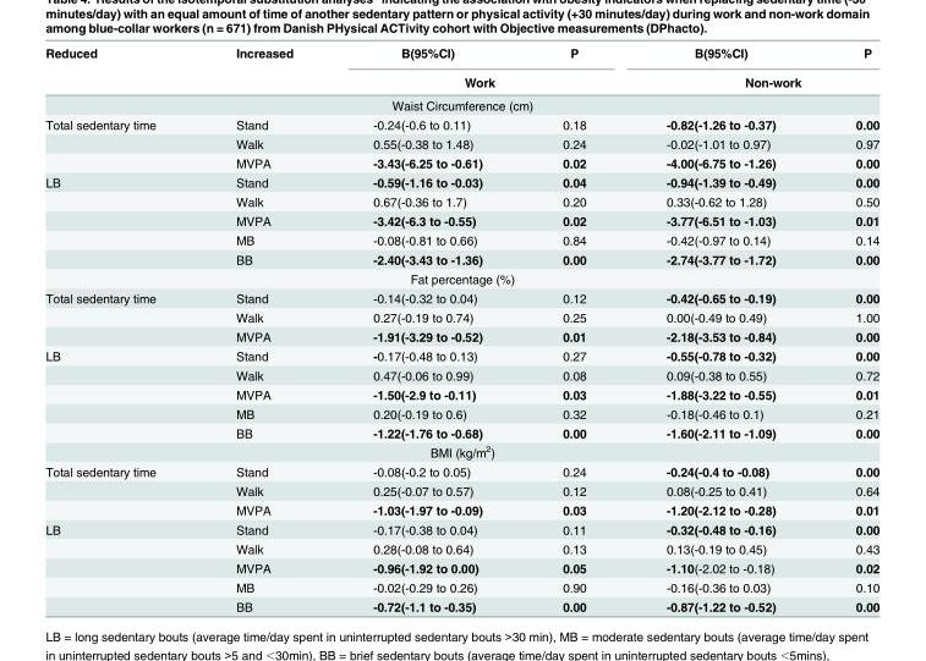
<table><thead><tr><td rowspan="2">Reduced</td><td rowspan="2">Increased</td><td>B(95%CI)</td><td>P</td><td>B(95%CI)</td><td>P</td></tr><tr><td colspan="2">Work</td><td colspan="2">Non-work</td></tr></thead><tbody><tr><td colspan="6">Waist Circumference (cm)</td></tr><tr><td rowspan="3">Total sedentary time</td><td>Stand</td><td>-0.24(-0.6 to 0.11)</td><td>0.18</td><td>-0.82(-1.26 to -0.37)</td><td>0.00</td></tr><tr><td>Walk</td><td>0.55(-0.38 to 1.48)</td><td>0.24</td><td>-0.02(-1.01 to 0.97)</td><td>0.97</td></tr><tr><td>MVPA</td><td>-3.43(-6.25 to -0.61)</td><td>0.02</td><td>-4.00(-6.75 to -1.26)</td><td>0.00</td></tr><tr><td rowspan="5">LB</td><td>Stand</td><td>-0.59(-1.16 to -0.03)</td><td>0.04</td><td>-0.94(-1.39 to -0.49)</td><td>0.00</td></tr><tr><td>Walk</td><td>0.67(-0.36 to 1.7)</td><td>0.20</td><td>0.33(-0.62 to 1.28)</td><td>0.50</td></tr><tr><td>MVPA</td><td>-3.42(-6.3 to -0.55)</td><td>0.02</td><td>-3.77(-6.51 to -1.03)</td><td>0.01</td></tr><tr><td>MB</td><td>-0.08(-0.81 to 0.66)</td><td>0.84</td><td>-0.42(-0.97 to 0.14)</td><td>0.14</td></tr><tr><td>BB</td><td>-2.40(-3.43 to -1.36)</td><td>0.00</td><td>-2.74(-3.77 to -1.72)</td><td>0.00</td></tr><tr><td colspan="6">Fat percentage (%)</td></tr><tr><td rowspan="3">Total sedentary time</td><td>Stand</td><td>-0.14(-0.32 to 0.04)</td><td>0.12</td><td>-0.42(-0.65 to -0.19)</td><td>0.00</td></tr><tr><td>Walk</td><td>0.27(-0.19 to 0.74)</td><td>0.25</td><td>0.00(-0.49 to 0.49)</td><td>1.00</td></tr><tr><td>MVPA</td><td>-1.91(-3.29 to -0.52)</td><td>0.01</td><td>-2.18(-3.53 to -0.84)</td><td>0.00</td></tr><tr><td rowspan="5">LB</td><td>Stand</td><td>-0.17(-0.48 to 0.13)</td><td>0.27</td><td>-0.55(-0.78 to -0.32)</td><td>0.00</td></tr><tr><td>Walk</td><td>0.47(-0.06 to 0.99)</td><td>0.08</td><td>0.09(-0.38 to 0.55)</td><td>0.72</td></tr><tr><td>MVPA</td><td>-1.50(-2.9 to -0.11)</td><td>0.03</td><td>-1.88(-3.22 to -0.55)</td><td>0.01</td></tr><tr><td>MB</td><td>0.20(-0.19 to 0.6)</td><td>0.32</td><td>-0.18(-0.46 to 0.1)</td><td>0.21</td></tr><tr><td>BB</td><td>-1.22(-1.76 to -0.68)</td><td>0.00</td><td>-1.60(-2.11 to -1.09)</td><td>0.00</td></tr><tr><td colspan="6">BMI (kg/m<sup>2</sup>)</td></tr><tr><td rowspan="3">Total sedentary time</td><td>Stand</td><td>-0.08(-0.2 to 0.05)</td><td>0.24</td><td>-0.24(-0.4 to -0.08)</td><td>0.00</td></tr><tr><td>Walk</td><td>0.25(-0.07 to 0.57)</td><td>0.12</td><td>0.08(-0.25 to 0.41)</td><td>0.64</td></tr><tr><td>MVPA</td><td>-1.03(-1.97 to -0.09)</td><td>0.03</td><td>-1.20(-2.12 to -0.28)</td><td>0.01</td></tr><tr><td rowspan="5">LB</td><td>Stand</td><td>-0.17(-0.38 to 0.04)</td><td>0.11</td><td>-0.32(-0.48 to -0.16)</td><td>0.00</td></tr><tr><td>Walk</td><td>0.28(-0.08 to 0.64)</td><td>0.13</td><td>0.13(-0.19 to 0.45)</td><td>0.43</td></tr><tr><td>MVPA</td><td>-0.96(-1.92 to 0.00)</td><td>0.05</td><td>-1.10(-2.02 to -0.18)</td><td>0.02</td></tr><tr><td>MB</td><td>-0.02(-0.29 to 0.26)</td><td>0.90</td><td>-0.16(-0.36 to 0.03)</td><td>0.10</td></tr><tr><td>BB</td><td>-0.72(-1.1 to -0.35)</td><td>0.00</td><td>-0.87(-1.22 to -0.52)</td><td>0.00</td></tr></tbody></table>